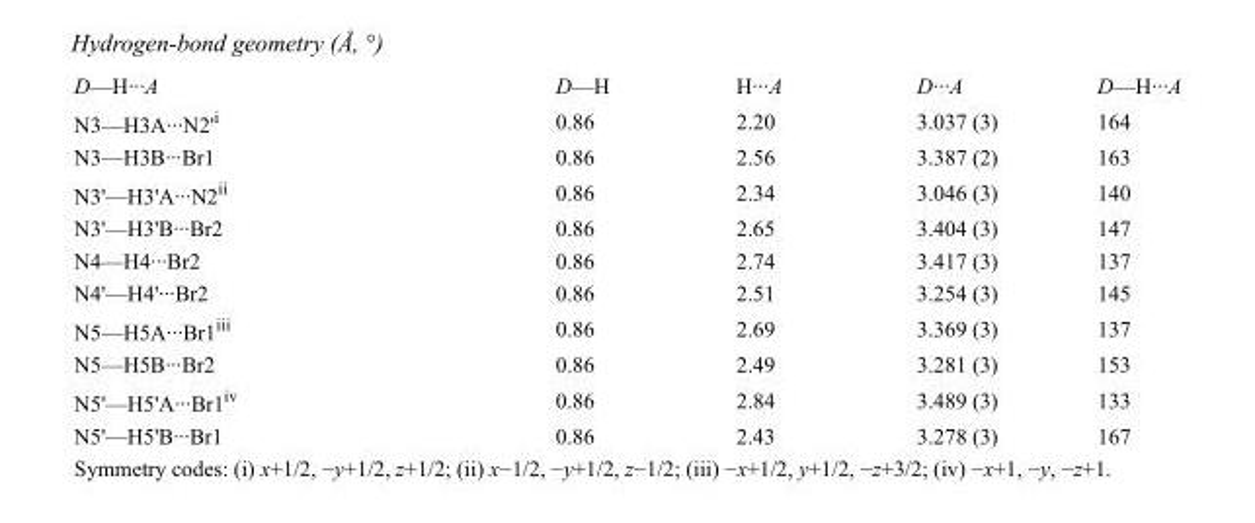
<table><tbody><tr><td>D—H···A</td><td>D—H</td><td>H···A</td><td>D···A</td><td>D—H···A</td></tr><tr><td>N3—H3A···N2&#x27;<sup>i</sup></td><td>0.86</td><td>2.20</td><td>3.037 (3)</td><td>164</td></tr><tr><td>N3—H3B···Br1</td><td>0.86</td><td>2.56</td><td>3.387 (2)</td><td>163</td></tr><tr><td>N3&#x27;—H3&#x27;A···N2<sup>ii</sup></td><td>0.86</td><td>2.34</td><td>3.046 (3)</td><td>140</td></tr><tr><td>N3&#x27;—H3&#x27;B···Br2</td><td>0.86</td><td>2.65</td><td>3.404 (3)</td><td>147</td></tr><tr><td>N4—H4···Br2</td><td>0.86</td><td>2.74</td><td>3.417 (3)</td><td>137</td></tr><tr><td>N4&#x27;—H4&#x27;···Br2</td><td>0.86</td><td>2.51</td><td>3.254 (3)</td><td>145</td></tr><tr><td>N5—H5A···Br1<sup>iii</sup></td><td>0.86</td><td>2.69</td><td>3.369 (3)</td><td>137</td></tr><tr><td>N5—H5B···Br2</td><td>0.86</td><td>2.49</td><td>3.281 (3)</td><td>153</td></tr><tr><td>N5&#x27;—H5&#x27;A···Br1<sup>iv</sup></td><td>0.86</td><td>2.84</td><td>3.489 (3)</td><td>133</td></tr><tr><td>N5&#x27;—H5&#x27;B···Br1</td><td>0.86</td><td>2.43</td><td>3.278 (3)</td><td>167</td></tr></tbody></table>